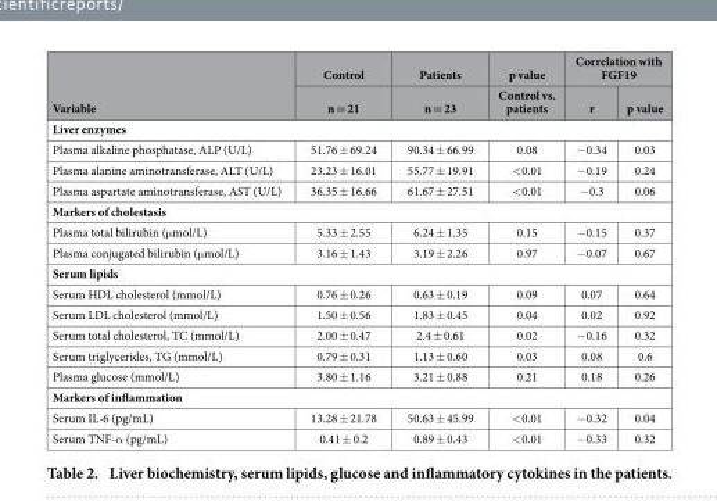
<table><thead><tr><td rowspan="2">Variable</td><td rowspan="2">Control n = 21</td><td rowspan="2">Patients n = 23</td><td rowspan="2">p value Control vs. patients</td><td colspan="2">Correlation with FGF19</td></tr><tr><td>r</td><td>p value</td></tr></thead><tbody><tr><td colspan="6">Liver enzymes</td></tr><tr><td>Plasma alkaline phosphatase, ALP (U/L)</td><td>51.76 ± 69.24</td><td>90.34 ± 66.99</td><td>0.08</td><td>− 0.34</td><td>0.03</td></tr><tr><td>Plasma alanine aminotransferase, ALT (U/L)</td><td>23.23 ± 16.01</td><td>55.77 ± 19.91</td><td>&lt; 0.01</td><td>− 0.19</td><td>0.24</td></tr><tr><td>Plasma aspartate aminotransferase, AST (U/L)</td><td>36.35 ± 16.66</td><td>61.67 ± 27.51</td><td>&lt; 0.01</td><td>− 0.3</td><td>0.06</td></tr><tr><td colspan="6">Markers of cholestasis</td></tr><tr><td>Plasma total bilirubin (μ mol/L)</td><td>5.33 ± 2.55</td><td>6.24 ± 1.35</td><td>0.15</td><td>− 0.15</td><td>0.37</td></tr><tr><td>Plasma conjugated bilirubin (μ mol/L)</td><td>3.16 ± 1.43</td><td>3.19 ± 2.26</td><td>0.97</td><td>− 0.07</td><td>0.67</td></tr><tr><td colspan="6">Serum lipids</td></tr><tr><td>Serum HDL cholesterol (mmol/L)</td><td>0.76 ± 0.26</td><td>0.63 ± 0.19</td><td>0.09</td><td>0.07</td><td>0.64</td></tr><tr><td>Serum LDL cholesterol (mmol/L)</td><td>1.50 ± 0.56</td><td>1.83 ± 0.45</td><td>0.04</td><td>0.02</td><td>0.92</td></tr><tr><td>Serum total cholesterol, TC (mmol/L)</td><td>2.00 ± 0.47</td><td>2.4 ± 0.61</td><td>0.02</td><td>− 0.16</td><td>0.32</td></tr><tr><td>Serum triglycerides, TG (mmol/L)</td><td>0.79 ± 0.31</td><td>1.13 ± 0.60</td><td>0.03</td><td>0.08</td><td>0.6</td></tr><tr><td>Plasma glucose (mmol/L)</td><td>3.80 ± 1.16</td><td>3.21 ± 0.88</td><td>0.21</td><td>0.18</td><td>0.26</td></tr><tr><td colspan="6">Markers of inflammation</td></tr><tr><td>Serum IL-6 (pg/mL)</td><td>13.28 ± 21.78</td><td>50.63 ± 45.99</td><td>&lt; 0.01</td><td>− 0.32</td><td>0.04</td></tr><tr><td>Serum TNF-α (pg/mL)</td><td>0.41 ± 0.2</td><td>0.89 ± 0.43</td><td>&lt; 0.01</td><td>− 0.33</td><td>0.32</td></tr></tbody></table>